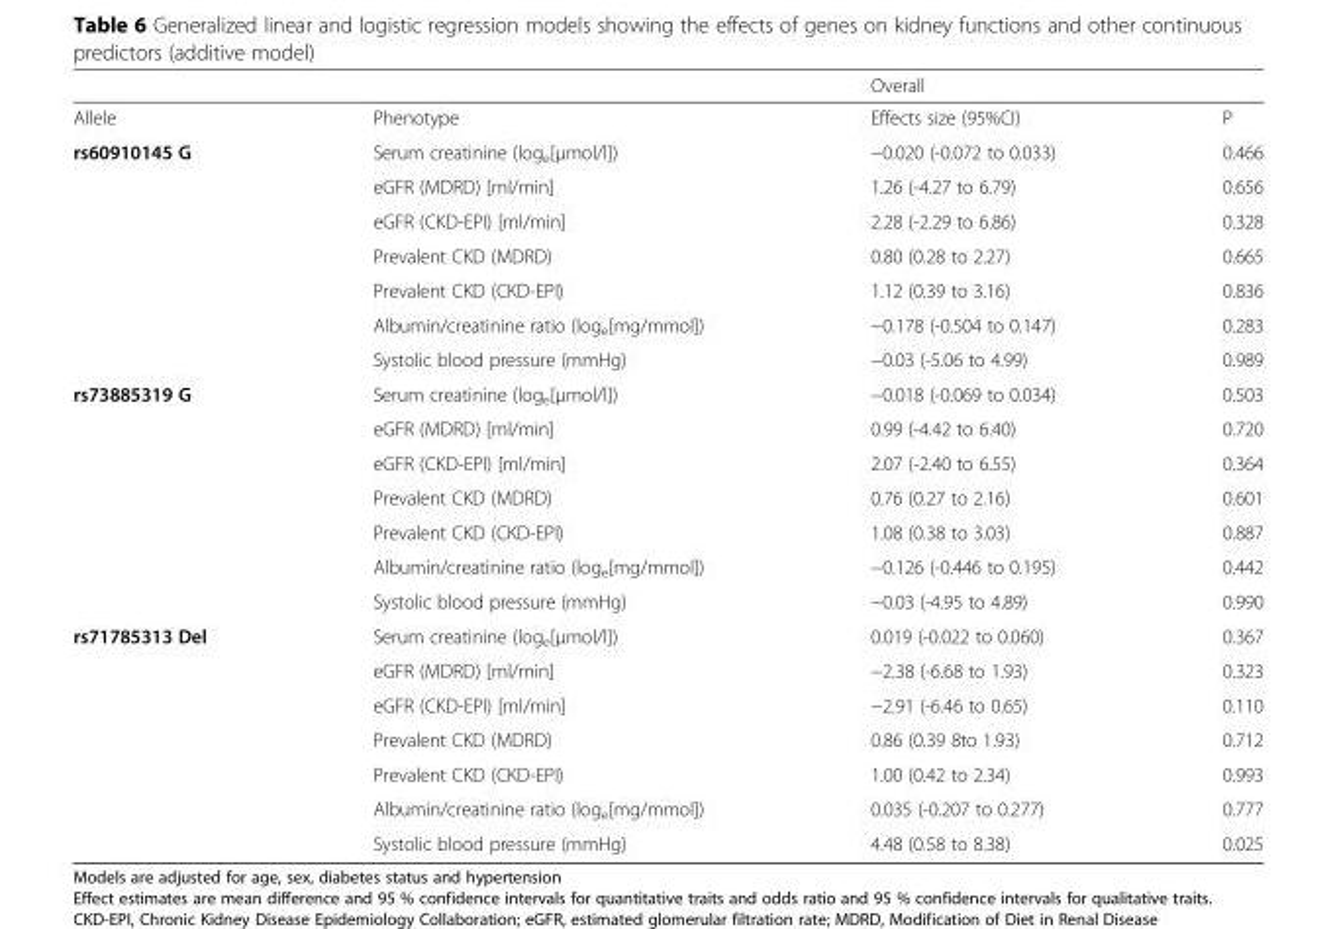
<table><thead><tr><td rowspan="2">Allele</td><td rowspan="2">Phenotype</td><td colspan="2">Overall</td></tr><tr><td>Effects size (95%CI)</td><td>P</td></tr></thead><tbody><tr><td rowspan="7">rs60910145 G</td><td>Serum creatinine (log<sub>e</sub>[μmol/l])</td><td>−0.020 (-0.072 to 0.033)</td><td>0.466</td></tr><tr><td>eGFR (MDRD) [ml/min]</td><td>1.26 (-4.27 to 6.79)</td><td>0.656</td></tr><tr><td>eGFR (CKD-EPI) [ml/min]</td><td>2.28 (-2.29 to 6.86)</td><td>0.328</td></tr><tr><td>Prevalent CKD (MDRD)</td><td>0.80 (0.28 to 2.27)</td><td>0.665</td></tr><tr><td>Prevalent CKD (CKD-EPI)</td><td>1.12 (0.39 to 3.16)</td><td>0.836</td></tr><tr><td>Albumin/creatinine ratio (log<sub>e</sub>[mg/mmol])</td><td>−0.178 (-0.504 to 0.147)</td><td>0.283</td></tr><tr><td>Systolic blood pressure (mmHg)</td><td>−0.03 (-5.06 to 4.99)</td><td>0.989</td></tr><tr><td rowspan="7">rs73885319 G</td><td>Serum creatinine (log<sub>e</sub>[μmol/l])</td><td>−0.018 (-0.069 to 0.034)</td><td>0.503</td></tr><tr><td>eGFR (MDRD) [ml/min]</td><td>0.99 (-4.42 to 6.40)</td><td>0.720</td></tr><tr><td>eGFR (CKD-EPI) [ml/min]</td><td>2.07 (-2.40 to 6.55)</td><td>0.364</td></tr><tr><td>Prevalent CKD (MDRD)</td><td>0.76 (0.27 to 2.16)</td><td>0.601</td></tr><tr><td>Prevalent CKD (CKD-EPI)</td><td>1.08 (0.38 to 3.03)</td><td>0.887</td></tr><tr><td>Albumin/creatinine ratio (log<sub>e</sub>[mg/mmol])</td><td>−0.126 (-0.446 to 0.195)</td><td>0.442</td></tr><tr><td>Systolic blood pressure (mmHg)</td><td>−0.03 (-4.95 to 4.89)</td><td>0.990</td></tr><tr><td rowspan="7">rs71785313 Del</td><td>Serum creatinine (log<sub>e</sub>[μmol/l])</td><td>0.019 (-0.022 to 0.060)</td><td>0.367</td></tr><tr><td>eGFR (MDRD) [ml/min]</td><td>−2.38 (-6.68 to 1.93)</td><td>0.323</td></tr><tr><td>eGFR (CKD-EPI) [ml/min]</td><td>−2.91 (-6.46 to 0.65)</td><td>0.110</td></tr><tr><td>Prevalent CKD (MDRD)</td><td>0.86 (0.39 8to 1.93)</td><td>0.712</td></tr><tr><td>Prevalent CKD (CKD-EPI)</td><td>1.00 (0.42 to 2.34)</td><td>0.993</td></tr><tr><td>Albumin/creatinine ratio (log<sub>e</sub>[mg/mmol])</td><td>0.035 (-0.207 to 0.277)</td><td>0.777</td></tr><tr><td>Systolic blood pressure (mmHg)</td><td>4.48 (0.58 to 8.38)</td><td>0.025</td></tr></tbody></table>